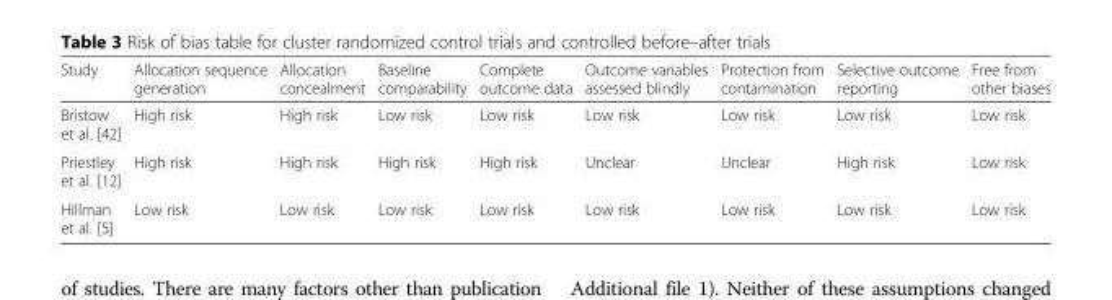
<table><thead><tr><td>Study</td><td>Allocation sequence generation</td><td>Allocation concealment</td><td>Baseline comparability</td><td>Complete outcome data</td><td>Outcome variables assessed blindly</td><td>Protection from contamination</td><td>Selective outcome reporting</td><td>Free from other biases</td></tr></thead><tbody><tr><td>Bristow et al. [42]</td><td>High risk</td><td>High risk</td><td>Low risk</td><td>Low risk</td><td>Low risk</td><td>Low risk</td><td>Low risk</td><td>Low risk</td></tr><tr><td>Priestley et al. [12]</td><td>High risk</td><td>High risk</td><td>High risk</td><td>High risk</td><td>Unclear</td><td>Unclear</td><td>High risk</td><td>Low risk</td></tr><tr><td>Hillman et al. [5]</td><td>Low risk</td><td>Low risk</td><td>Low risk</td><td>Low risk</td><td>Low risk</td><td>Low risk</td><td>Low risk</td><td>Low risk</td></tr></tbody></table>